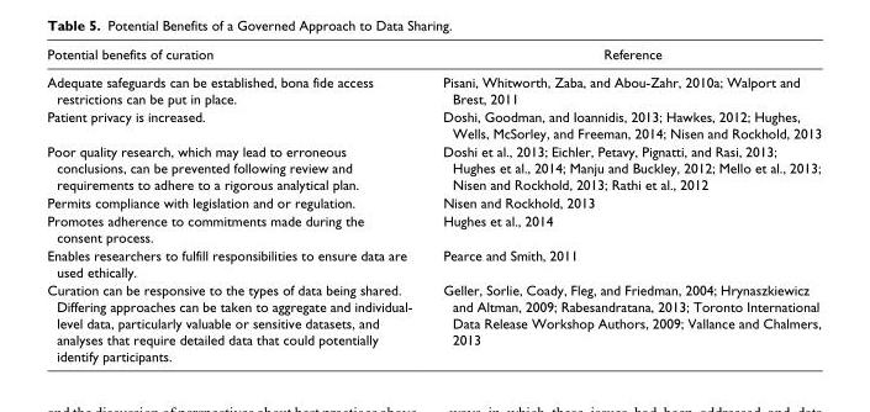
<table><thead><tr><td>Potential benefits of curation</td><td>Reference</td></tr></thead><tbody><tr><td>Adequate safeguards can be established, bona fide access restrictions can be put in place.</td><td>Pisani, Whitworth, Zaba, and Abou-Zahr, 2010a; Walport and Brest, 2011</td></tr><tr><td>Patient privacy is increased.</td><td>Doshi, Goodman, and Ioannidis, 2013; Hawkes, 2012; Hughes, Wells, McSorley, and Freeman, 2014; Nisen and Rockhold, 2013</td></tr><tr><td>Poor quality research, which may lead to erroneous conclusions, can be prevented following review and requirements to adhere to a rigorous analytical plan.</td><td>Doshi et al., 2013; Eichler, Petavy, Pignatti, and Rasi, 2013; Hughes et al., 2014; Manju and Buckley, 2012; Mello et al., 2013; Nisen and Rockhold, 2013; Rathi et al., 2012</td></tr><tr><td>Permits compliance with legislation and or regulation.</td><td>Nisen and Rockhold, 2013</td></tr><tr><td>Promotes adherence to commitments made during the consent process.</td><td>Hughes et al., 2014</td></tr><tr><td>Enables researchers to fulfill responsibilities to ensure data are used ethically.</td><td>Pearce and Smith, 2011</td></tr><tr><td>Curation can be responsive to the types of data being shared. Differing approaches can be taken to aggregate and individual- level data, particularly valuable or sensitive datasets, and analyses that require detailed data that could potentially identify participants.</td><td>Geller, Sorlie, Coady, Fleg, and Friedman, 2004; Hrynaszkiewicz and Altman, 2009; Rabesandratana, 2013; Toronto International Data Release Workshop Authors, 2009; Vallance and Chalmers, 2013</td></tr></tbody></table>